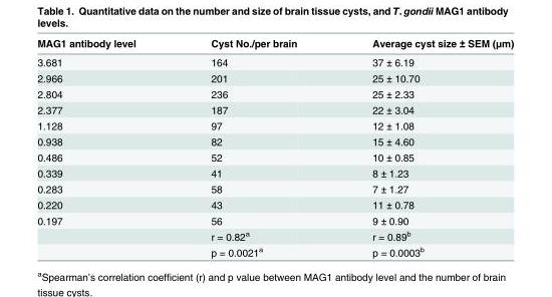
<table><thead><tr><td>MAG1 antibody level</td><td>Cyst No./per brain</td><td>Average cyst size ± SEM (μm)</td></tr></thead><tbody><tr><td>3.681</td><td>164</td><td>37 ± 6.19</td></tr><tr><td>2.966</td><td>201</td><td>25 ± 10.70</td></tr><tr><td>2.804</td><td>236</td><td>25 ± 2.33</td></tr><tr><td>2.377</td><td>187</td><td>22 ± 3.04</td></tr><tr><td>1.128</td><td>97</td><td>12 ± 1.08</td></tr><tr><td>0.938</td><td>82</td><td>15 ± 4.60</td></tr><tr><td>0.486</td><td>52</td><td>10 ± 0.85</td></tr><tr><td>0.339</td><td>41</td><td>8 ± 1.23</td></tr><tr><td>0.283</td><td>58</td><td>7 ± 1.27</td></tr><tr><td>0.220</td><td>43</td><td>11 ± 0.78</td></tr><tr><td rowspan="3">0.197</td><td>56</td><td>9 ± 0.90</td></tr><tr><td>r = 0.82<sup>a</sup></td><td>r = 0.89<sup>b</sup></td></tr><tr><td>p = 0.0021<sup>a</sup></td><td>p = 0.0003<sup>b</sup></td></tr></tbody></table>